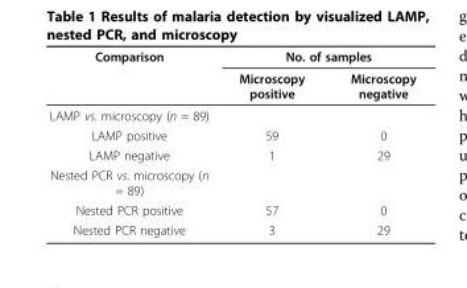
<table><thead><tr><td rowspan="2">Comparison</td><td colspan="2">No. of samples</td></tr><tr><td>Microscopy positive</td><td>Microscopy negative</td></tr></thead><tbody><tr><td colspan="3">LAMP vs. microscopy (n = 89)</td></tr><tr><td>LAMP positive</td><td>59</td><td>0</td></tr><tr><td>LAMP negative</td><td>1</td><td>29</td></tr><tr><td colspan="3">Nested PCR vs. microscopy (n = 89)</td></tr><tr><td>Nested PCR positive</td><td>57</td><td>0</td></tr><tr><td>Nested PCR negative</td><td>3</td><td>29</td></tr></tbody></table>